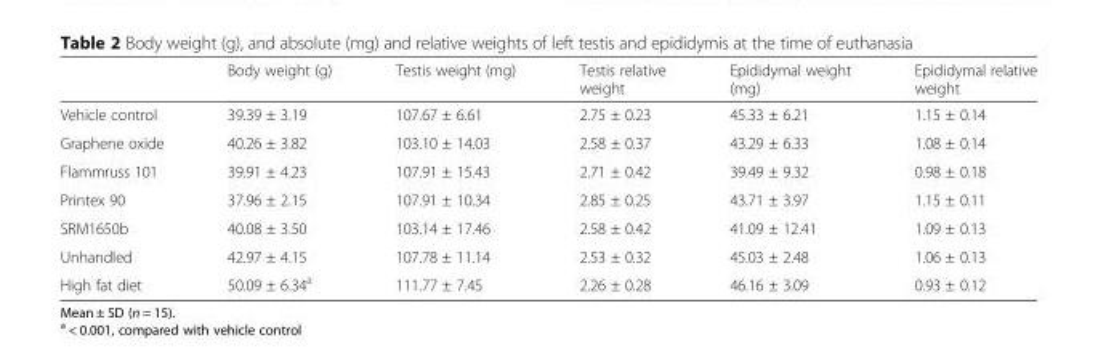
<table><thead><tr><td></td><td>Body weight (g)</td><td>Testis weight (mg)</td><td>Testis relative weight</td><td>Epididymal weight (mg)</td><td>Epididymal relative weight</td></tr></thead><tbody><tr><td>Vehicle control</td><td>39.39 ± 3.19</td><td>107.67 ± 6.61</td><td>2.75 ± 0.23</td><td>45.33 ± 6.21</td><td>1.15 ± 0.14</td></tr><tr><td>Graphene oxide</td><td>40.26 ± 3.82</td><td>103.10 ± 14.03</td><td>2.58 ± 0.37</td><td>43.29 ± 6.33</td><td>1.08 ± 0.14</td></tr><tr><td>Flammruss 101</td><td>39.91 ± 4.23</td><td>107.91 ± 15.43</td><td>2.71 ± 0.42</td><td>39.49 ± 9.32</td><td>0.98 ± 0.18</td></tr><tr><td>Printex 90</td><td>37.96 ± 2.15</td><td>107.91 ± 10.34</td><td>2.85 ± 0.25</td><td>43.71 ± 3.97</td><td>1.15 ± 0.11</td></tr><tr><td>SRM1650b</td><td>40.08 ± 3.50</td><td>103.14 ± 17.46</td><td>2.58 ± 0.42</td><td>41.09 ± 12.41</td><td>1.09 ± 0.13</td></tr><tr><td>Unhandled</td><td>42.97 ± 4.15</td><td>107.78 ± 11.14</td><td>2.53 ± 0.32</td><td>45.03 ± 2.48</td><td>1.06 ± 0.13</td></tr><tr><td>High fat diet</td><td>50.09 ± 6.34<sup>a</sup></td><td>111.77 ± 7.45</td><td>2.26 ± 0.28</td><td>46.16 ± 3.09</td><td>0.93 ± 0.12</td></tr></tbody></table>